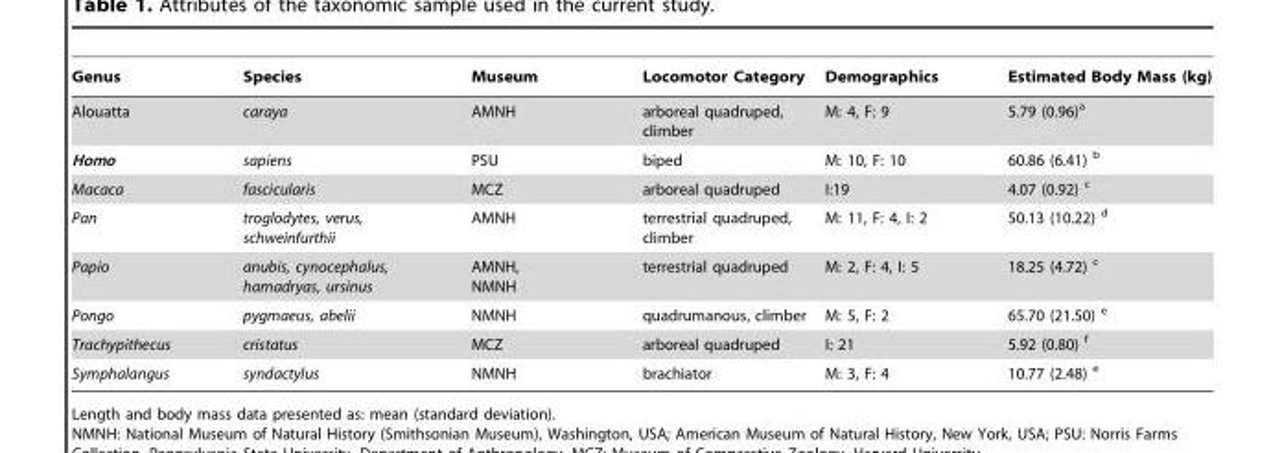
<table><thead><tr><td>Genus</td><td>Species</td><td>Museum</td><td>Locomotor Category</td><td>Demographics</td><td>Estimated Body Mass (kg)</td></tr></thead><tbody><tr><td>Alouatta</td><td>caraya</td><td>AMNH</td><td>arboreal quadruped, climber</td><td>M: 4, F: 9</td><td>5.79 (0.96)<sup>a</sup></td></tr><tr><td>Homo</td><td>sapiens</td><td>PSU</td><td>biped</td><td>M: 10, F: 10</td><td>60.86 (6.41) b</td></tr><tr><td>Macaca</td><td>fascicularis</td><td>MCZ</td><td>arboreal quadruped</td><td>I:19</td><td>4.07 (0.92) c</td></tr><tr><td>Pan</td><td>troglodytes, verus, schweinfurthii</td><td>AMNH</td><td>terrestrial quadruped, climber</td><td>M: 11, F: 4, I: 2</td><td>50.13 (10.22) d</td></tr><tr><td>Papio</td><td>anubis, cynocephalus, hamadryas, ursinus</td><td>AMNH, NMNH</td><td>terrestrial quadruped</td><td>M: 2, F: 4, I: 5</td><td>18.25 (4.72) c</td></tr><tr><td>Pongo</td><td>pygmaeus, abelii</td><td>NMNH</td><td>quadrumanous, climber</td><td>M: 5, F: 2</td><td>65.70 (21.50) e</td></tr><tr><td>Trachypithecus</td><td>cristatus</td><td>MCZ</td><td>arboreal quadruped</td><td>I: 21</td><td>5.92 (0.80) f</td></tr><tr><td>Symphalangus</td><td>syndactylus</td><td>NMNH</td><td>brachiator</td><td>M: 3, F: 4</td><td>10.77 (2.48) e</td></tr></tbody></table>